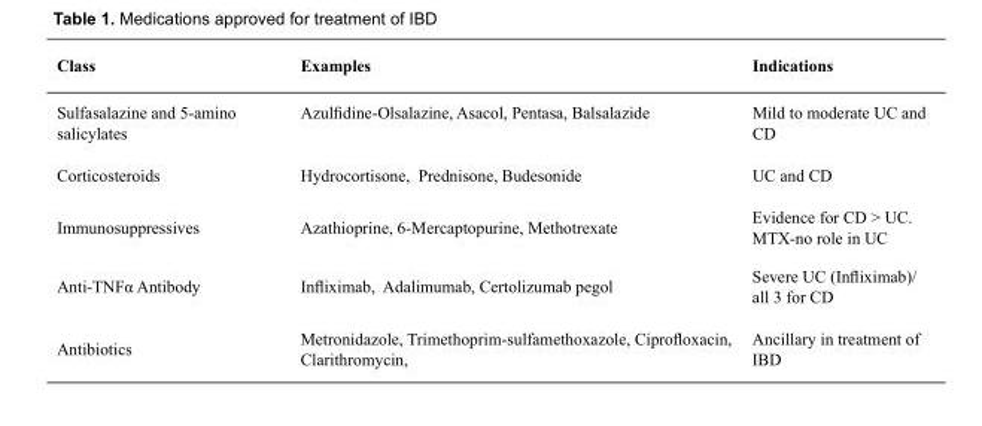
<table><thead><tr><td>Class</td><td>Examples</td><td>Indications</td></tr></thead><tbody><tr><td>Sulfasalazine and 5-amino salicylates</td><td>Azulfidine-Olsalazine, Asacol, Pentasa, Balsalazide</td><td>Mild to moderate UC and CD</td></tr><tr><td>Corticosteroids</td><td>Hydrocortisone, Prednisone, Budesonide</td><td>UC and CD</td></tr><tr><td>Immunosuppressives</td><td>Azathioprine, 6-Mercaptopurine, Methotrexate</td><td>Evidence for CD &gt; UC. MTX-no role in UC</td></tr><tr><td>Anti-TNFα Antibody</td><td>Infliximab, Adalimumab, Certolizumab pegol</td><td>Severe UC (Infliximab)/ all 3 for CD</td></tr><tr><td>Antibiotics</td><td>Metronidazole, Trimethoprim-sulfamethoxazole, Ciprofloxacin, Clarithromycin,</td><td>Ancillary in treatment of IBD</td></tr></tbody></table>